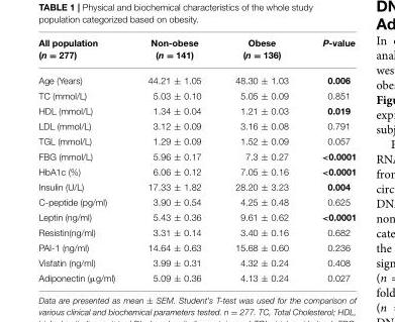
<table><thead><tr><td>All population (n = 277)</td><td>Non-obese (n = 141)</td><td>Obese (n = 136)</td><td>P-value</td></tr></thead><tbody><tr><td>Age (Years)</td><td>44.21 ± 1.05</td><td>48.30 ± 1.03</td><td>0.006</td></tr><tr><td>TC (mmol/L)</td><td>5.03 ± 0.10</td><td>5.05 ± 0.09</td><td>0.851</td></tr><tr><td>HDL (mmol/L)</td><td>1.34 ± 0.04</td><td>1.21 ± 0.03</td><td>0.019</td></tr><tr><td>LDL (mmol/L)</td><td>3.12 ± 0.09</td><td>3.16 ± 0.08</td><td>0.791</td></tr><tr><td>TGL (mmol/L)</td><td>1.29 ± 0.09</td><td>1.52 ± 0.09</td><td>0.057</td></tr><tr><td>FBG (mmol/L)</td><td>5.96 ± 0.17</td><td>7.3 ± 0.27</td><td>&lt;0.0001</td></tr><tr><td>HbA1c (%)</td><td>6.06 ± 0.12</td><td>7.05 ± 0.16</td><td>&lt;0.0001</td></tr><tr><td>Insulin (U/L)</td><td>17.33 ± 1.82</td><td>28.20 ± 3.23</td><td>0.004</td></tr><tr><td>C-peptide (pg/ml)</td><td>3.90 ± 0.54</td><td>4.25 ± 0.48</td><td>0.625</td></tr><tr><td>Leptin (ng/ml)</td><td>5.43 ± 0.36</td><td>9.61 ± 0.62</td><td>&lt;0.0001</td></tr><tr><td>Resistin(ng/ml)</td><td>3.31 ± 0.14</td><td>3.40 ± 0.16</td><td>0.682</td></tr><tr><td>PAI-1 (ng/ml)</td><td>14.64 ± 0.63</td><td>15.68 ± 0.60</td><td>0.236</td></tr><tr><td>Visfatin (ng/ml)</td><td>3.99 ± 0.31</td><td>4.32 ± 0.24</td><td>0.408</td></tr><tr><td>Adiponectin (µg/ml)</td><td>5.09 ± 0.36</td><td>4.13 ± 0.24</td><td>0.027</td></tr></tbody></table>